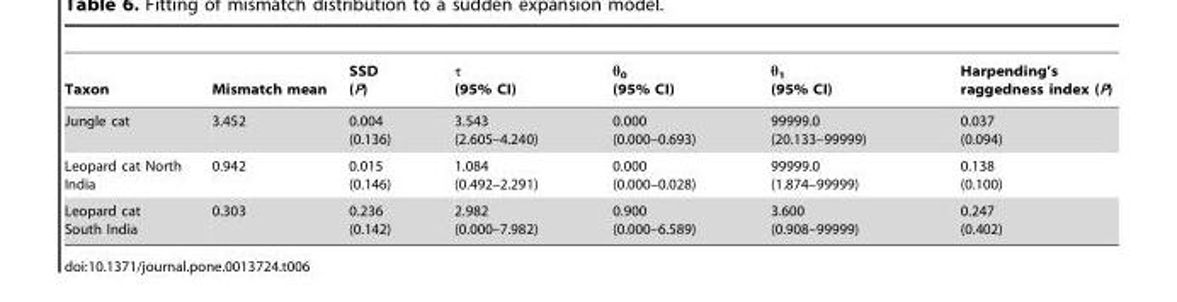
<table><thead><tr><td>Taxon</td><td>Mismatch mean</td><td>SSD (P)</td><td>τ (95% CI)</td><td>θ<sub>0</sub> (95% CI)</td><td>θ<sub>1</sub> (95% CI)</td><td>Harpending’s raggedness index (P)</td></tr></thead><tbody><tr><td>Jungle cat</td><td>3.452</td><td>0.004 (0.136)</td><td>3.543 (2.605–4.240)</td><td>0.000 (0.000–0.693)</td><td>99999.0 (20.133–99999)</td><td>0.037 (0.094)</td></tr><tr><td>Leopard cat North India</td><td>0.942</td><td>0.015 (0.146)</td><td>1.084 (0.492–2.291)</td><td>0.000 (0.000–0.028)</td><td>99999.0 (1.874–99999)</td><td>0.138 (0.100)</td></tr><tr><td>Leopard cat South India</td><td>0.303</td><td>0.236 (0.142)</td><td>2.982 (0.000–7.982)</td><td>0.900 (0.000–6.589)</td><td>3.600 (0.908–99999)</td><td>0.247 (0.402)</td></tr></tbody></table>